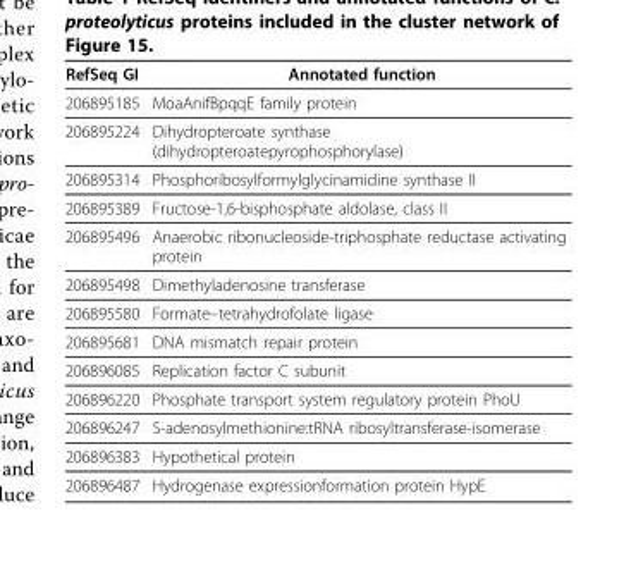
<table><thead><tr><td>RefSeq GI</td><td>Annotated function</td></tr></thead><tbody><tr><td>206895185</td><td>MoaAnifBpqqE family protein</td></tr><tr><td>206895224</td><td>Dihydropteroate synthase (dihydropteroatepyrophosphorylase)</td></tr><tr><td>206895314</td><td>Phosphoribosylformylglycinamidine synthase II</td></tr><tr><td>206895389</td><td>Fructose-1,6-bisphosphate aldolase, class II</td></tr><tr><td>206895496</td><td>Anaerobic ribonucleoside-triphosphate reductase activating protein</td></tr><tr><td>206895498</td><td>Dimethyladenosine transferase</td></tr><tr><td>206895580</td><td>Formate–tetrahydrofolate ligase</td></tr><tr><td>206895681</td><td>DNA mismatch repair protein</td></tr><tr><td>206896085</td><td>Replication factor C subunit</td></tr><tr><td>206896220</td><td>Phosphate transport system regulatory protein PhoU</td></tr><tr><td>206896247</td><td>S-adenosylmethionine:tRNA ribosyltransferase-isomerase</td></tr><tr><td>206896383</td><td>Hypothetical protein</td></tr><tr><td>206896487</td><td>Hydrogenase expressionformation protein HypE</td></tr></tbody></table>